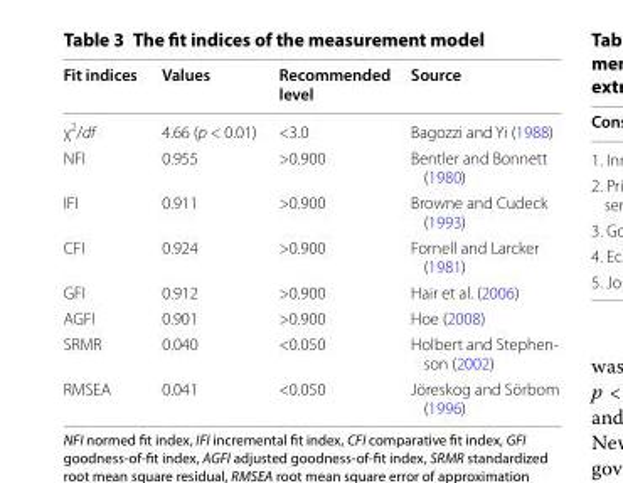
<table><thead><tr><td>Fit indices</td><td>Values</td><td>Recommended level</td><td>Source</td></tr></thead><tbody><tr><td>χ<sup>2</sup>/df</td><td>4.66 (p &lt; 0.01)</td><td>&lt;3.0</td><td>Bagozzi and Yi (1988)</td></tr><tr><td>NFI</td><td>0.955</td><td>&gt;0.900</td><td>Bentler and Bonnett (1980)</td></tr><tr><td>IFI</td><td>0.911</td><td>&gt;0.900</td><td>Browne and Cudeck (1993)</td></tr><tr><td>CFI</td><td>0.924</td><td>&gt;0.900</td><td>Fornell and Larcker (1981)</td></tr><tr><td>GFI</td><td>0.912</td><td>&gt;0.900</td><td>Hair et al. (2006)</td></tr><tr><td>AGFI</td><td>0.901</td><td>&gt;0.900</td><td>Hoe (2008)</td></tr><tr><td>SRMR</td><td>0.040</td><td>&lt;0.050</td><td>Holbert and Stephen‑ son (2002)</td></tr><tr><td>RMSEA</td><td>0.041</td><td>&lt;0.050</td><td>Jöreskog and Sörbom (1996)</td></tr></tbody></table>